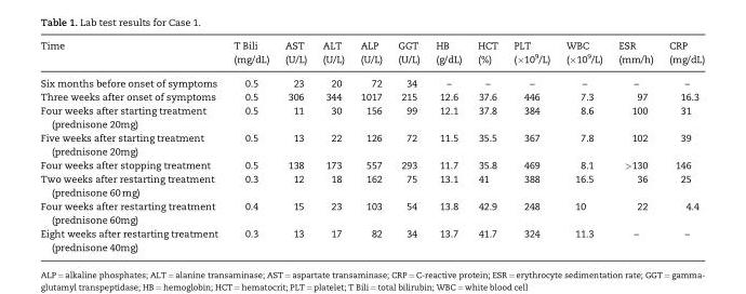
<table><thead><tr><td>Time</td><td>T Bili (mg/dL)</td><td>AST (U/L)</td><td>ALT (U/L)</td><td>ALP (U/L)</td><td>GGT (U/L)</td><td>HB (g/dL)</td><td>HCT (%)</td><td>PLT (×10<sup>9</sup>/L)</td><td>WBC (×10<sup>9</sup>/L)</td><td>ESR (mm/h)</td><td>CRP (mg/dL)</td></tr></thead><tbody><tr><td>Six months before onset of symptoms</td><td>0.5</td><td>23</td><td>20</td><td>72</td><td>34</td><td>–</td><td>–</td><td>–</td><td>–</td><td>–</td><td>–</td></tr><tr><td>Three weeks after onset of symptoms</td><td>0.5</td><td>306</td><td>344</td><td>1017</td><td>215</td><td>12.6</td><td>37.6</td><td>446</td><td>7.3</td><td>97</td><td>16.3</td></tr><tr><td>Four weeks after starting treatment (prednisone 20mg)</td><td>0.5</td><td>11</td><td>30</td><td>156</td><td>99</td><td>12.1</td><td>37.8</td><td>384</td><td>8.6</td><td>100</td><td>31</td></tr><tr><td>Five weeks after starting treatment (prednisone 20mg)</td><td>0.5</td><td>13</td><td>22</td><td>126</td><td>72</td><td>11.5</td><td>35.5</td><td>367</td><td>7.8</td><td>102</td><td>39</td></tr><tr><td>Four weeks after stopping treatment</td><td>0.5</td><td>138</td><td>173</td><td>557</td><td>293</td><td>11.7</td><td>35.8</td><td>469</td><td>8.1</td><td>&gt;130</td><td>146</td></tr><tr><td>Two weeks after restarting treatment (prednisone 60 mg)</td><td>0.3</td><td>12</td><td>18</td><td>162</td><td>75</td><td>13.1</td><td>41</td><td>388</td><td>16.5</td><td>36</td><td>25</td></tr><tr><td>Four weeks after restarting treatment (prednisone 60mg)</td><td>0.4</td><td>15</td><td>23</td><td>103</td><td>54</td><td>13.8</td><td>42.9</td><td>248</td><td>10</td><td>22</td><td>4.4</td></tr><tr><td>Eight weeks after restarting treatment (prednisone 40mg)</td><td>0.3</td><td>13</td><td>17</td><td>82</td><td>34</td><td>13.7</td><td>41.7</td><td>324</td><td>11.3</td><td>–</td><td>–</td></tr></tbody></table>